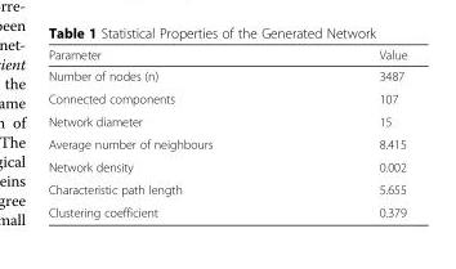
<table><thead><tr><td>Parameter</td><td>Value</td></tr></thead><tbody><tr><td>Number of nodes (n)</td><td>3487</td></tr><tr><td>Connected components</td><td>107</td></tr><tr><td>Network diameter</td><td>15</td></tr><tr><td>Average number of neighbours</td><td>8.415</td></tr><tr><td>Network density</td><td>0.002</td></tr><tr><td>Characteristic path length</td><td>5.655</td></tr><tr><td>Clustering coefficient</td><td>0.379</td></tr></tbody></table>